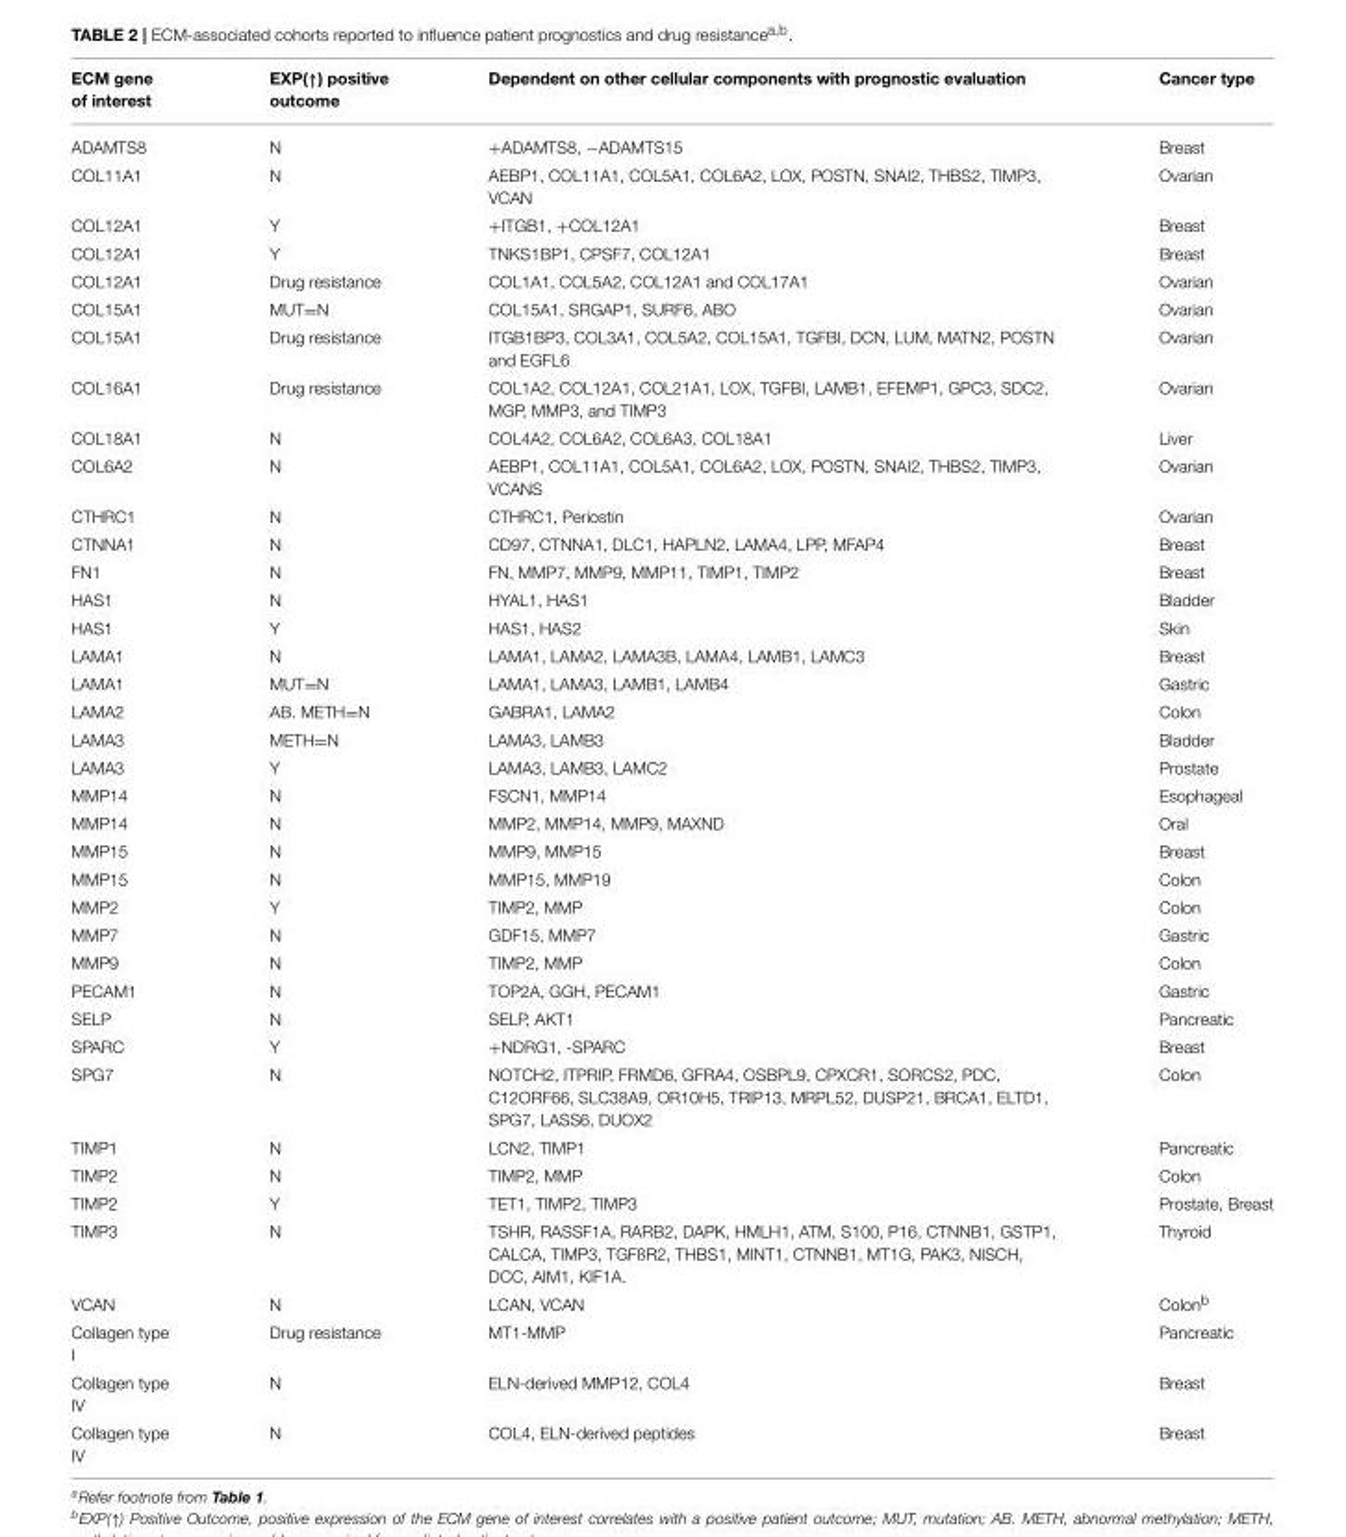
<table><thead><tr><td>ECM gene of interest</td><td>EXP(↑) positive outcome</td><td>Dependent on other cellular components with prognostic evaluation</td><td>Cancer type</td></tr></thead><tbody><tr><td>ADAMTS8</td><td>N</td><td>+ADAMTS8, −ADAMTS15</td><td>Breast</td></tr><tr><td>COL11A1</td><td>N</td><td>AEBP1, COL11A1, COL5A1, COL6A2, LOX, POSTN, SNAI2, THBS2, TIMP3, VCAN</td><td>Ovarian</td></tr><tr><td>COL12A1</td><td>Y</td><td>+ITGB1, +COL12A1</td><td>Breast</td></tr><tr><td>COL12A1</td><td>Y</td><td>TNKS1BP1, CPSF7, COL12A1</td><td>Breast</td></tr><tr><td>COL12A1</td><td>Drug resistance</td><td>COL1A1, COL5A2, COL12A1 and COL17A1</td><td>Ovarian</td></tr><tr><td>COL15A1</td><td>MUT=N</td><td>COL15A1, SRGAP1, SURF6, ABO</td><td>Ovarian</td></tr><tr><td>COL15A1</td><td>Drug resistance</td><td>ITGB1BP3, COL3A1, COL5A2, COL15A1, TGFBI, DCN, LUM, MATN2, POSTN and EGFL6</td><td>Ovarian</td></tr><tr><td>COL16A1</td><td>Drug resistance</td><td>COL1A2, COL12A1, COL21A1, LOX, TGFBI, LAMB1, EFEMP1, GPC3, SDC2, MGP, MMP3, and TIMP3</td><td>Ovarian</td></tr><tr><td>COL18A1</td><td>N</td><td>COL4A2, COL6A2, COL6A3, COL18A1</td><td>Liver</td></tr><tr><td>COL6A2</td><td>N</td><td>AEBP1, COL11A1, COL5A1, COL6A2, LOX, POSTN, SNAI2, THBS2, TIMP3, VCANS</td><td>Ovarian</td></tr><tr><td>CTHRC1</td><td>N</td><td>CTHRC1, Periostin</td><td>Ovarian</td></tr><tr><td>CTNNA1</td><td>N</td><td>CD97, CTNNA1, DLC1, HAPLN2, LAMA4, LPP, MFAP4</td><td>Breast</td></tr><tr><td>FN1</td><td>N</td><td>FN, MMP7, MMP9, MMP11, TIMP1, TIMP2</td><td>Breast</td></tr><tr><td>HAS1</td><td>N</td><td>HYAL1, HAS1</td><td>Bladder</td></tr><tr><td>HAS1</td><td>Y</td><td>HAS1, HAS2</td><td>Skin</td></tr><tr><td>LAMA1</td><td>N</td><td>LAMA1, LAMA2, LAMA3B, LAMA4, LAMB1, LAMC3</td><td>Breast</td></tr><tr><td>LAMA1</td><td>MUT=N</td><td>LAMA1, LAMA3, LAMB1, LAMB4</td><td>Gastric</td></tr><tr><td>LAMA2</td><td>AB. METH=N</td><td>GABRA1, LAMA2</td><td>Colon</td></tr><tr><td>LAMA3</td><td>METH=N</td><td>LAMA3, LAMB3</td><td>Bladder</td></tr><tr><td>LAMA3</td><td>Y</td><td>LAMA3, LAMB3, LAMC2</td><td>Prostate</td></tr><tr><td>MMP14</td><td>N</td><td>FSCN1, MMP14</td><td>Esophageal</td></tr><tr><td>MMP14</td><td>N</td><td>MMP2, MMP14, MMP9, MAXND</td><td>Oral</td></tr><tr><td>MMP15</td><td>N</td><td>MMP9, MMP15</td><td>Breast</td></tr><tr><td>MMP15</td><td>N</td><td>MMP15, MMP19</td><td>Colon</td></tr><tr><td>MMP2</td><td>Y</td><td>TIMP2, MMP</td><td>Colon</td></tr><tr><td>MMP7</td><td>N</td><td>GDF15, MMP7</td><td>Gastric</td></tr><tr><td>MMP9</td><td>N</td><td>TIMP2, MMP</td><td>Colon</td></tr><tr><td>PECAM1</td><td>N</td><td>TOP2A, GGH, PECAM1</td><td>Gastric</td></tr><tr><td>SELP</td><td>N</td><td>SELP, AKT1</td><td>Pancreatic</td></tr><tr><td>SPARC</td><td>Y</td><td>+NDRG1, -SPARC</td><td>Breast</td></tr><tr><td>SPG7</td><td>N</td><td>NOTCH2, ITPRIP, FRMD6, GFRA4, OSBPL9, CPXCR1, SORCS2, PDC, C12ORF66, SLC38A9, OR10H5, TRIP13, MRPL52, DUSP21, BRCA1, ELTD1, SPG7, LASS6, DUOX2</td><td>Colon</td></tr><tr><td>TIMP1</td><td>N</td><td>LCN2, TIMP1</td><td>Pancreatic</td></tr><tr><td>TIMP2</td><td>N</td><td>TIMP2, MMP</td><td>Colon</td></tr><tr><td>TIMP2</td><td>Y</td><td>TET1, TIMP2, TIMP3</td><td>Prostate, Breast</td></tr><tr><td>TIMP3</td><td>N</td><td>TSHR, RASSF1A, RARB2, DAPK, HMLH1, ATM, S100, P16, CTNNB1, GSTP1, CALCA, TIMP3, TGFßR2, THBS1, MINT1, CTNNB1, MT1G, PAK3, NISCH, DCC, AIM1, KIF1A.</td><td>Thyroid</td></tr><tr><td>VCAN</td><td>N</td><td>LCAN, VCAN</td><td>Colon<sup>b</sup></td></tr><tr><td>Collagen type I</td><td>Drug resistance</td><td>MT1-MMP</td><td>Pancreatic</td></tr><tr><td>Collagen type IV</td><td>N</td><td>ELN-derived MMP12, COL4</td><td>Breast</td></tr><tr><td>Collagen type IV</td><td>N</td><td>COL4, ELN-derived peptides</td><td>Breast</td></tr></tbody></table>